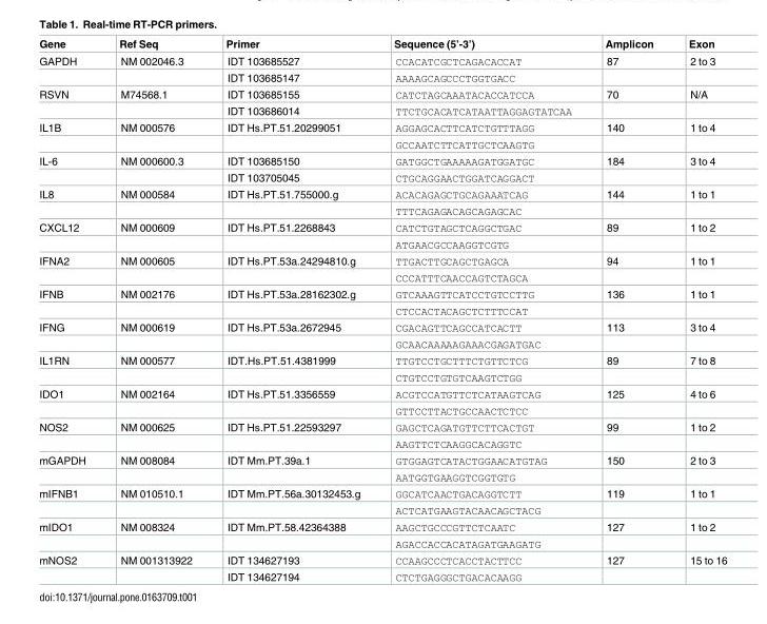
<table><thead><tr><td>Gene</td><td>Ref Seq</td><td>Primer</td><td>Sequence (5’-3’)</td><td>Amplicon</td><td>Exon</td></tr></thead><tbody><tr><td rowspan="2">GAPDH</td><td>NM 002046.3</td><td>IDT 103685527</td><td>CCACATCGCTCAGACACCAT</td><td>87</td><td>2 to 3</td></tr><tr><td></td><td>IDT 103685147</td><td>AAAAGCAGCCCTGGTGACC</td><td></td><td></td></tr><tr><td rowspan="2">RSVN</td><td>M74568.1</td><td>IDT 103685155</td><td>CATCTAGCAAATACACCATCCA</td><td>70</td><td>N/A</td></tr><tr><td></td><td>IDT 103686014</td><td>TTCTGCACATCATAATTAGGAGTATCAA</td><td></td><td></td></tr><tr><td rowspan="2">IL1B</td><td>NM 000576</td><td>IDT Hs.PT.51.20299051</td><td>AGGAGCACTTCATCTGTTTAGG</td><td>140</td><td>1 to 4</td></tr><tr><td></td><td></td><td>GCCAATCTTCATTGCTCAAGTG</td><td></td><td></td></tr><tr><td rowspan="2">IL-6</td><td>NM 000600.3</td><td>IDT 103685150</td><td>GATGGCTGAAAAAGATGGATGC</td><td>184</td><td>3 to 4</td></tr><tr><td></td><td>IDT 103705045</td><td>CTGCAGGAACTGGATCAGGACT</td><td></td><td></td></tr><tr><td rowspan="2">IL8</td><td>NM 000584</td><td>IDT Hs.PT.51.755000.g</td><td>ACACAGAGCTGCAGAAATCAG</td><td>144</td><td>1 to 1</td></tr><tr><td></td><td></td><td>TTTCAGAGACAGCAGAGCAC</td><td></td><td></td></tr><tr><td rowspan="2">CXCL12</td><td>NM 000609</td><td>IDT Hs.PT.51.2268843</td><td>CATCTGTAGCTCAGGCTGAC</td><td>89</td><td>1 to 2</td></tr><tr><td></td><td></td><td>ATGAACGCCAAGGTCGTG</td><td></td><td></td></tr><tr><td rowspan="2">IFNA2</td><td>NM 000605</td><td>IDT Hs.PT.53a.24294810.g</td><td>TTGACTTGCAGCTGAGCA</td><td>94</td><td>1 to 1</td></tr><tr><td></td><td></td><td>CCCATTTCAACCAGTCTAGCA</td><td></td><td></td></tr><tr><td rowspan="2">IFNB</td><td>NM 002176</td><td>IDT Hs.PT.53a.28162302.g</td><td>GTCAAAGTTCATCCTGTCCTTG</td><td>136</td><td>1 to 1</td></tr><tr><td></td><td></td><td>CTCCACTACAGCTCTTTCCAT</td><td></td><td></td></tr><tr><td rowspan="2">IFNG</td><td>NM 000619</td><td>IDT Hs.PT.53a.2672945</td><td>CGACAGTTCAGCCATCACTT</td><td>113</td><td>3 to 4</td></tr><tr><td></td><td></td><td>GCAACAAAAAGAAACGAGATGAC</td><td></td><td></td></tr><tr><td rowspan="2">IL1RN</td><td>NM 000577</td><td>IDT.Hs.PT.51.4381999</td><td>TTGTCCTGCTTTCTGTTCTCG</td><td>89</td><td>7 to 8</td></tr><tr><td></td><td></td><td>CTGTCCTGTGTCAAGTCTGG</td><td></td><td></td></tr><tr><td rowspan="2">IDO1</td><td>NM 002164</td><td>IDT Hs.PT.51.3356559</td><td>ACGTCCATGTTCTCATAAGTCAG</td><td>125</td><td>4 to 6</td></tr><tr><td></td><td></td><td>GTTCCTTACTGCCAACTCTCC</td><td></td><td></td></tr><tr><td rowspan="2">NOS2</td><td>NM 000625</td><td>IDT Hs.PT.51.22593297</td><td>GAGCTCAGATGTTCTTCACTGT</td><td>99</td><td>1 to 2</td></tr><tr><td></td><td></td><td>AAGTTCTCAAGGCACAGGTC</td><td></td><td></td></tr><tr><td rowspan="2">mGAPDH</td><td>NM 008084</td><td>IDT Mm.PT.39a.1</td><td>GTGGAGTCATACTGGAACATGTAG</td><td>150</td><td>2 to 3</td></tr><tr><td></td><td></td><td>AATGGTGAAGGTCGGTGTG</td><td></td><td></td></tr><tr><td rowspan="2">mIFNB1</td><td>NM 010510.1</td><td>IDT Mm.PT.56a.30132453.g</td><td>GGCATCAACTGACAGGTCTT</td><td>119</td><td>1 to 1</td></tr><tr><td></td><td></td><td>ACTCATGAAGTACAACAGCTACG</td><td></td><td></td></tr><tr><td rowspan="2">mIDO1</td><td>NM 008324</td><td>IDT Mm.PT.58.42364388</td><td>AAGCTGCCCGTTCTCAATC</td><td>127</td><td>1 to 2</td></tr><tr><td></td><td></td><td>AGACCACCACATAGATGAAGATG</td><td></td><td></td></tr><tr><td rowspan="2">mNOS2</td><td>NM 001313922</td><td>IDT 134627193</td><td>CCAAGCCCTCACCTACTTCC</td><td>127</td><td>15 to 16</td></tr><tr><td></td><td>IDT 134627194</td><td>CTCTGAGGGCTGACACAAGG</td><td></td><td></td></tr></tbody></table>